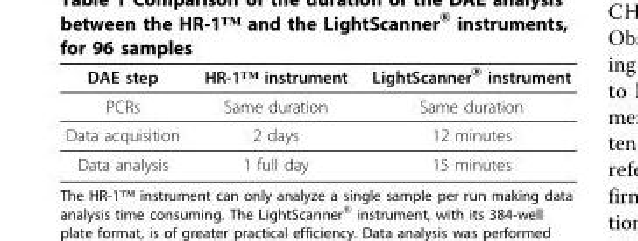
<table><thead><tr><td>DAE step</td><td>HR-1™ instrument</td><td>LightScanner<sup>®</sup> instrument</td></tr></thead><tbody><tr><td>PCRs</td><td>Same duration</td><td>Same duration</td></tr><tr><td>Data acquisition</td><td>2 days</td><td>12 minutes</td></tr><tr><td>Data analysis</td><td>1 full day</td><td>15 minutes</td></tr></tbody></table>